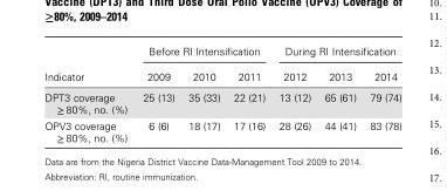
<table><thead><tr><td rowspan="2">Indicator</td><td colspan="3">Before RI Intensification</td><td colspan="3">During RI Intensification</td></tr><tr><td>2009</td><td>2010</td><td>2011</td><td>2012</td><td>2013</td><td>2014</td></tr></thead><tbody><tr><td>DPT3 coverage ≥ 80%, no. (%)</td><td>25 (13)</td><td>35 (33)</td><td>22 (21)</td><td>13 (12)</td><td>65 (61)</td><td>79 (74)</td></tr><tr><td>OPV3 coverage ≥ 80%, no. (%)</td><td>6 (6)</td><td>18 (17)</td><td>17 (16)</td><td>28 (26)</td><td>44 (41)</td><td>83 (78)</td></tr></tbody></table>